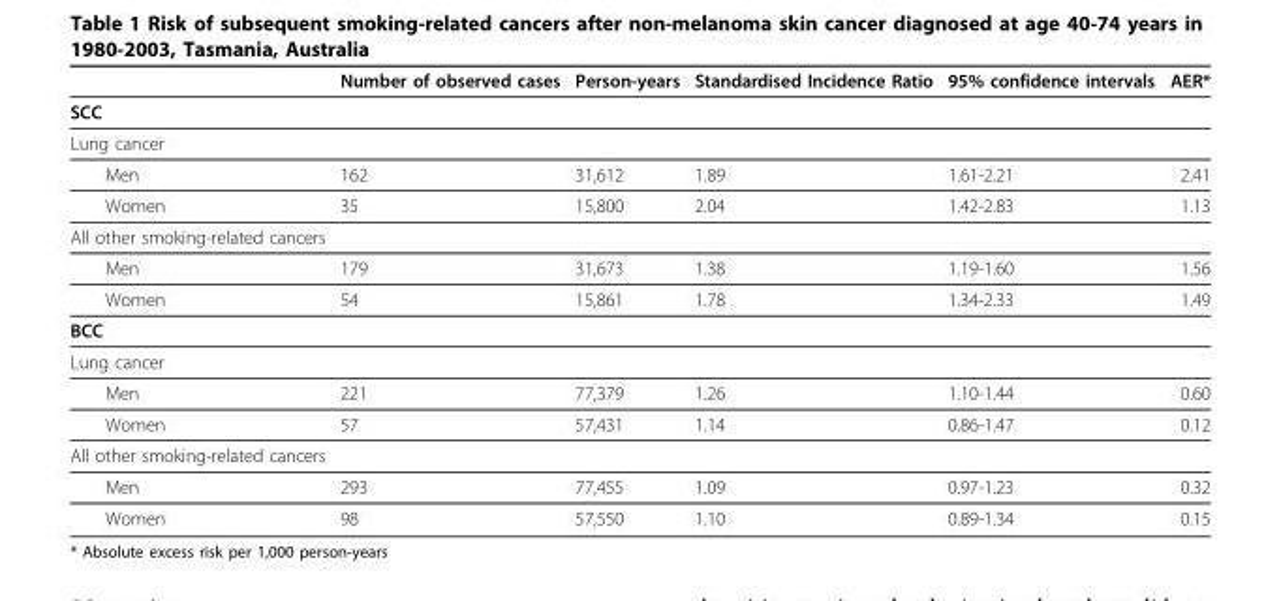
<table><thead><tr><td></td><td>Number of observed cases</td><td>Person-years</td><td>Standardised Incidence Ratio</td><td>95% confidence intervals</td><td>AER*</td></tr></thead><tbody><tr><td colspan="6">SCC</td></tr><tr><td colspan="6">Lung cancer</td></tr><tr><td>Men</td><td>162</td><td>31,612</td><td>1.89</td><td>1.61-2.21</td><td>2.41</td></tr><tr><td>Women</td><td>35</td><td>15,800</td><td>2.04</td><td>1.42-2.83</td><td>1.13</td></tr><tr><td colspan="6">All other smoking-related cancers</td></tr><tr><td>Men</td><td>179</td><td>31,673</td><td>1.38</td><td>1.19-1.60</td><td>1.56</td></tr><tr><td>Women</td><td>54</td><td>15,861</td><td>1.78</td><td>1.34-2.33</td><td>1.49</td></tr><tr><td colspan="6">BCC</td></tr><tr><td colspan="6">Lung cancer</td></tr><tr><td>Men</td><td>221</td><td>77,379</td><td>1.26</td><td>1.10-1.44</td><td>0.60</td></tr><tr><td>Women</td><td>57</td><td>57,431</td><td>1.14</td><td>0.86-1.47</td><td>0.12</td></tr><tr><td colspan="6">All other smoking-related cancers</td></tr><tr><td>Men</td><td>293</td><td>77,455</td><td>1.09</td><td>0.97-1.23</td><td>0.32</td></tr><tr><td>Women</td><td>98</td><td>57,550</td><td>1.10</td><td>0.89-1.34</td><td>0.15</td></tr></tbody></table>